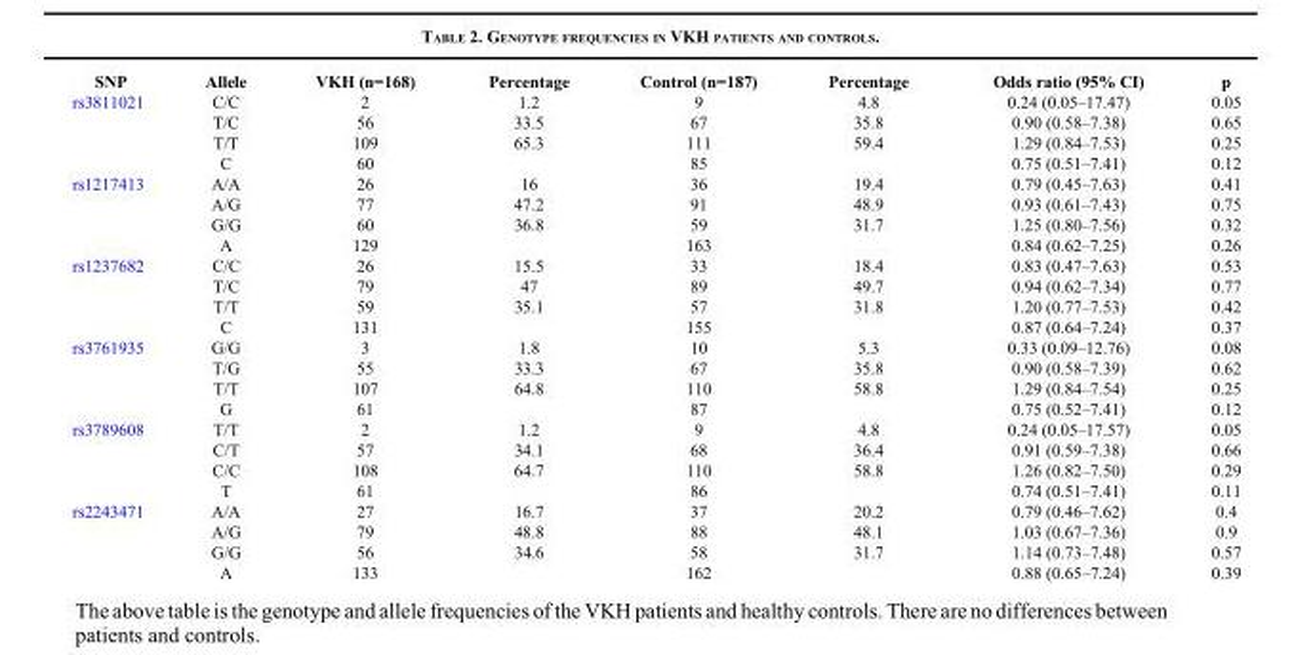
<table><thead><tr><td>SNP</td><td>Allele</td><td>VKH (n=168)</td><td>Percentage</td><td>Control (n=187)</td><td>Percentage</td><td>Odds ratio (95% CI)</td><td>p</td></tr></thead><tbody><tr><td rowspan="4">rs3811021</td><td>C/C</td><td>2</td><td>1.2</td><td>9</td><td>4.8</td><td>0.24 (0.05–17.47)</td><td>0.05</td></tr><tr><td>T/C</td><td>56</td><td>33.5</td><td>67</td><td>35.8</td><td>0.90 (0.58–7.38)</td><td>0.65</td></tr><tr><td>T/T</td><td>109</td><td>65.3</td><td>111</td><td>59.4</td><td>1.29 (0.84–7.53)</td><td>0.25</td></tr><tr><td>C</td><td>60</td><td></td><td>85</td><td></td><td>0.75 (0.51–7.41)</td><td>0.12</td></tr><tr><td rowspan="4">rs1217413</td><td>A/A</td><td>26</td><td>16</td><td>36</td><td>19.4</td><td>0.79 (0.45–7.63)</td><td>0.41</td></tr><tr><td>A/G</td><td>77</td><td>47.2</td><td>91</td><td>48.9</td><td>0.93 (0.61–7.43)</td><td>0.75</td></tr><tr><td>G/G</td><td>60</td><td>36.8</td><td>59</td><td>31.7</td><td>1.25 (0.80–7.56)</td><td>0.32</td></tr><tr><td>A</td><td>129</td><td></td><td>163</td><td></td><td>0.84 (0.62–7.25)</td><td>0.26</td></tr><tr><td rowspan="4">rs1237682</td><td>C/C</td><td>26</td><td>15.5</td><td>33</td><td>18.4</td><td>0.83 (0.47–7.63)</td><td>0.53</td></tr><tr><td>T/C</td><td>79</td><td>47</td><td>89</td><td>49.7</td><td>0.94 (0.62–7.34)</td><td>0.77</td></tr><tr><td>T/T</td><td>59</td><td>35.1</td><td>57</td><td>31.8</td><td>1.20 (0.77–7.53)</td><td>0.42</td></tr><tr><td>C</td><td>131</td><td></td><td>155</td><td></td><td>0.87 (0.64–7.24)</td><td>0.37</td></tr><tr><td rowspan="4">rs3761935</td><td>G/G</td><td>3</td><td>1.8</td><td>10</td><td>5.3</td><td>0.33 (0.09–12.76)</td><td>0.08</td></tr><tr><td>T/G</td><td>55</td><td>33.3</td><td>67</td><td>35.8</td><td>0.90 (0.58–7.39)</td><td>0.62</td></tr><tr><td>T/T</td><td>107</td><td>64.8</td><td>110</td><td>58.8</td><td>1.29 (0.84–7.54)</td><td>0.25</td></tr><tr><td>G</td><td>61</td><td></td><td>87</td><td></td><td>0.75 (0.52–7.41)</td><td>0.12</td></tr><tr><td rowspan="4">rs3789608</td><td>T/T</td><td>2</td><td>1.2</td><td>9</td><td>4.8</td><td>0.24 (0.05–17.57)</td><td>0.05</td></tr><tr><td>C/T</td><td>57</td><td>34.1</td><td>68</td><td>36.4</td><td>0.91 (0.59–7.38)</td><td>0.66</td></tr><tr><td>C/C</td><td>108</td><td>64.7</td><td>110</td><td>58.8</td><td>1.26 (0.82–7.50)</td><td>0.29</td></tr><tr><td>T</td><td>61</td><td></td><td>86</td><td></td><td>0.74 (0.51–7.41)</td><td>0.11</td></tr><tr><td rowspan="4">rs2243471</td><td>A/A</td><td>27</td><td>16.7</td><td>37</td><td>20.2</td><td>0.79 (0.46–7.62)</td><td>0.4</td></tr><tr><td>A/G</td><td>79</td><td>48.8</td><td>88</td><td>48.1</td><td>1.03 (0.67–7.36)</td><td>0.9</td></tr><tr><td>G/G</td><td>56</td><td>34.6</td><td>58</td><td>31.7</td><td>1.14 (0.73–7.48)</td><td>0.57</td></tr><tr><td>A</td><td>133</td><td></td><td>162</td><td></td><td>0.88 (0.65–7.24)</td><td>0.39</td></tr></tbody></table>